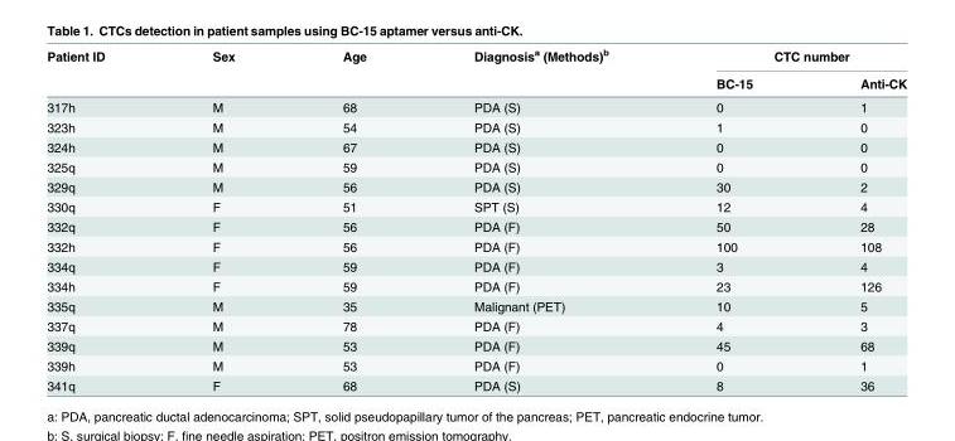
<table><thead><tr><td rowspan="2">Patient ID</td><td rowspan="2">Sex</td><td rowspan="2">Age</td><td rowspan="2">Diagnosis<sup>a</sup> (Methods)<sup>b</sup></td><td colspan="2">CTC number</td></tr><tr><td>BC-15</td><td>Anti-CK</td></tr></thead><tbody><tr><td>317h</td><td>M</td><td>68</td><td>PDA (S)</td><td>0</td><td>1</td></tr><tr><td>323h</td><td>M</td><td>54</td><td>PDA (S)</td><td>1</td><td>0</td></tr><tr><td>324h</td><td>M</td><td>67</td><td>PDA (S)</td><td>0</td><td>0</td></tr><tr><td>325q</td><td>M</td><td>59</td><td>PDA (S)</td><td>0</td><td>0</td></tr><tr><td>329q</td><td>M</td><td>56</td><td>PDA (S)</td><td>30</td><td>2</td></tr><tr><td>330q</td><td>F</td><td>51</td><td>SPT (S)</td><td>12</td><td>4</td></tr><tr><td>332q</td><td>F</td><td>56</td><td>PDA (F)</td><td>50</td><td>28</td></tr><tr><td>332h</td><td>F</td><td>56</td><td>PDA (F)</td><td>100</td><td>108</td></tr><tr><td>334q</td><td>F</td><td>59</td><td>PDA (F)</td><td>3</td><td>4</td></tr><tr><td>334h</td><td>F</td><td>59</td><td>PDA (F)</td><td>23</td><td>126</td></tr><tr><td>335q</td><td>M</td><td>35</td><td>Malignant (PET)</td><td>10</td><td>5</td></tr><tr><td>337q</td><td>M</td><td>78</td><td>PDA (F)</td><td>4</td><td>3</td></tr><tr><td>339q</td><td>M</td><td>53</td><td>PDA (F)</td><td>45</td><td>68</td></tr><tr><td>339h</td><td>M</td><td>53</td><td>PDA (F)</td><td>0</td><td>1</td></tr><tr><td>341q</td><td>F</td><td>68</td><td>PDA (S)</td><td>8</td><td>36</td></tr></tbody></table>